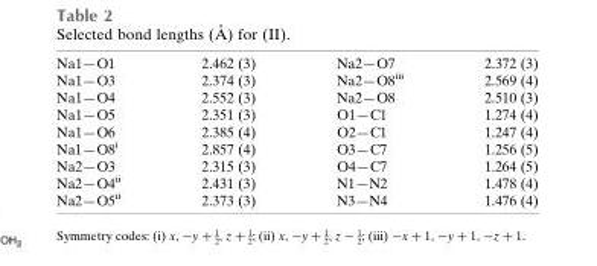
<table><tbody><tr><td>Na1—O1</td><td>2.462 (3)</td><td>Na2—O7</td><td>2.372 (3)</td></tr><tr><td>Na1—O3</td><td>2.374 (3)</td><td>Na2—O8<sup>iii</sup></td><td>2.569 (4)</td></tr><tr><td>Na1—O4</td><td>2.552 (3)</td><td>Na2—O8</td><td>2.510 (3)</td></tr><tr><td>Na1—O5</td><td>2.351 (3)</td><td>O1—C1</td><td>1.274 (4)</td></tr><tr><td>Na1—O6</td><td>2.385 (4)</td><td>O2—C1</td><td>1.247 (4)</td></tr><tr><td>Na1—O8<sup>i</sup></td><td>2.857 (4)</td><td>O3—C7</td><td>1.256 (5)</td></tr><tr><td>Na2—O3</td><td>2.315 (3)</td><td>O4—C7</td><td>1.264 (5)</td></tr><tr><td>Na2—O4<sup>ii</sup></td><td>2.431 (3)</td><td>N1—N2</td><td>1.478 (4)</td></tr><tr><td>Na2—O5<sup>ii</sup></td><td>2.373 (3)</td><td>N3—N4</td><td>1.476 (4)</td></tr></tbody></table>